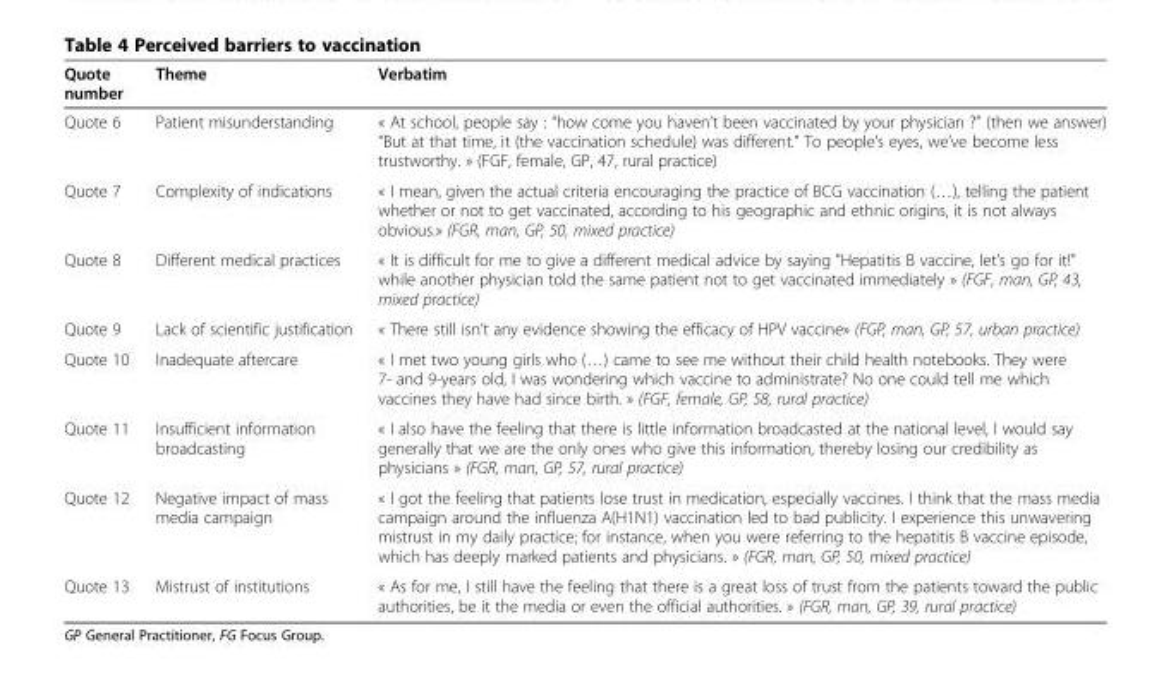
<table><thead><tr><td>Quote number</td><td>Theme</td><td>Verbatim</td></tr></thead><tbody><tr><td>Quote 6</td><td>Patient misunderstanding</td><td>« At school, people say : “how come you haven’t been vaccinated by your physician ?” (then we answer) “But at that time, it (the vaccination schedule) was different.” To people’s eyes, we’ve become less trustworthy. » (FGF, female, GP, 47, rural practice)</td></tr><tr><td>Quote 7</td><td>Complexity of indications</td><td>« I mean, given the actual criteria encouraging the practice of BCG vaccination (…), telling the patient whether or not to get vaccinated, according to his geographic and ethnic origins, it is not always obvious.» (FGR, man, GP, 50, mixed practice)</td></tr><tr><td>Quote 8</td><td>Different medical practices</td><td>« It is difficult for me to give a different medical advice by saying &quot;Hepatitis B vaccine, let’s go for it!&quot; while another physician told the same patient not to get vaccinated immediately » (FGF, man, GP, 43, mixed practice)</td></tr><tr><td>Quote 9</td><td>Lack of scientific justification</td><td>« There still isn’t any evidence showing the efficacy of HPV vaccine» (FGP, man, GP, 57, urban practice)</td></tr><tr><td>Quote 10</td><td>Inadequate aftercare</td><td>« I met two young girls who (…) came to see me without their child health notebooks. They were 7- and 9-years old, I was wondering which vaccine to administrate? No one could tell me which vaccines they have had since birth. » (FGF, female, GP, 58, rural practice)</td></tr><tr><td>Quote 11</td><td>Insufficient information broadcasting</td><td>« I also have the feeling that there is little information broadcasted at the national level, I would say generally that we are the only ones who give this information, thereby losing our credibility as physicians » (FGR, man, GP, 57, rural practice)</td></tr><tr><td>Quote 12</td><td>Negative impact of mass media campaign</td><td>« I got the feeling that patients lose trust in medication, especially vaccines. I think that the mass media campaign around the influenza A(H1N1) vaccination led to bad publicity. I experience this unwavering mistrust in my daily practice; for instance, when you were referring to the hepatitis B vaccine episode, which has deeply marked patients and physicians. » (FGR, man, GP, 50, mixed practice)</td></tr><tr><td>Quote 13</td><td>Mistrust of institutions</td><td>« As for me, I still have the feeling that there is a great loss of trust from the patients toward the public authorities, be it the media or even the official authorities. » (FGR, man, GP, 39, rural practice)</td></tr></tbody></table>